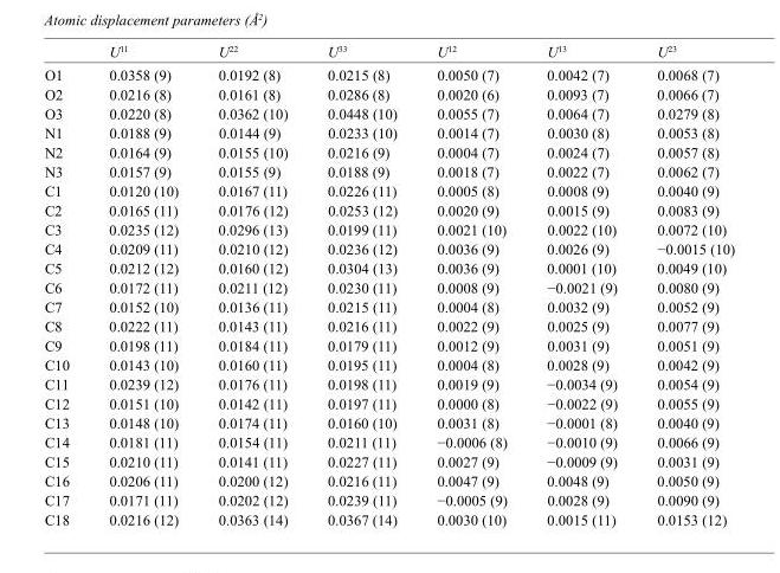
<table><thead><tr><td></td><td>U<sup>11</sup></td><td>U<sup>22</sup></td><td>U<sup>33</sup></td><td>U<sup>12</sup></td><td>U<sup>13</sup></td><td>U<sup>23</sup></td></tr></thead><tbody><tr><td>O1</td><td>0.0358 (9)</td><td>0.0192 (8)</td><td>0.0215 (8)</td><td>0.0050 (7)</td><td>0.0042 (7)</td><td>0.0068 (7)</td></tr><tr><td>O2</td><td>0.0216 (8)</td><td>0.0161 (8)</td><td>0.0286 (8)</td><td>0.0020 (6)</td><td>0.0093 (7)</td><td>0.0066 (7)</td></tr><tr><td>O3</td><td>0.0220 (8)</td><td>0.0362 (10)</td><td>0.0448 (10)</td><td>0.0055 (7)</td><td>0.0064 (7)</td><td>0.0279 (8)</td></tr><tr><td>N1</td><td>0.0188 (9)</td><td>0.0144 (9)</td><td>0.0233 (10)</td><td>0.0014 (7)</td><td>0.0030 (8)</td><td>0.0053 (8)</td></tr><tr><td>N2</td><td>0.0164 (9)</td><td>0.0155 (10)</td><td>0.0216 (9)</td><td>0.0004 (7)</td><td>0.0024 (7)</td><td>0.0057 (8)</td></tr><tr><td>N3</td><td>0.0157 (9)</td><td>0.0155 (9)</td><td>0.0188 (9)</td><td>0.0018 (7)</td><td>0.0022 (7)</td><td>0.0062 (7)</td></tr><tr><td>C1</td><td>0.0120 (10)</td><td>0.0167 (11)</td><td>0.0226 (11)</td><td>0.0005 (8)</td><td>0.0008 (9)</td><td>0.0040 (9)</td></tr><tr><td>C2</td><td>0.0165 (11)</td><td>0.0176 (12)</td><td>0.0253 (12)</td><td>0.0020 (9)</td><td>0.0015 (9)</td><td>0.0083 (9)</td></tr><tr><td>C3</td><td>0.0235 (12)</td><td>0.0296 (13)</td><td>0.0199 (11)</td><td>0.0021 (10)</td><td>0.0022 (10)</td><td>0.0072 (10)</td></tr><tr><td>C4</td><td>0.0209 (11)</td><td>0.0210 (12)</td><td>0.0236 (12)</td><td>0.0036 (9)</td><td>0.0026 (9)</td><td>−0.0015 (10)</td></tr><tr><td>C5</td><td>0.0212 (12)</td><td>0.0160 (12)</td><td>0.0304 (13)</td><td>0.0036 (9)</td><td>0.0001 (10)</td><td>0.0049 (10)</td></tr><tr><td>C6</td><td>0.0172 (11)</td><td>0.0211 (12)</td><td>0.0230 (11)</td><td>0.0008 (9)</td><td>−0.0021 (9)</td><td>0.0080 (9)</td></tr><tr><td>C7</td><td>0.0152 (10)</td><td>0.0136 (11)</td><td>0.0215 (11)</td><td>0.0004 (8)</td><td>0.0032 (9)</td><td>0.0052 (9)</td></tr><tr><td>C8</td><td>0.0222 (11)</td><td>0.0143 (11)</td><td>0.0216 (11)</td><td>0.0022 (9)</td><td>0.0025 (9)</td><td>0.0077 (9)</td></tr><tr><td>C9</td><td>0.0198 (11)</td><td>0.0184 (11)</td><td>0.0179 (11)</td><td>0.0012 (9)</td><td>0.0031 (9)</td><td>0.0051 (9)</td></tr><tr><td>C10</td><td>0.0143 (10)</td><td>0.0160 (11)</td><td>0.0195 (11)</td><td>0.0004 (8)</td><td>0.0028 (9)</td><td>0.0042 (9)</td></tr><tr><td>C11</td><td>0.0239 (12)</td><td>0.0176 (11)</td><td>0.0198 (11)</td><td>0.0019 (9)</td><td>−0.0034 (9)</td><td>0.0054 (9)</td></tr><tr><td>C12</td><td>0.0151 (10)</td><td>0.0142 (11)</td><td>0.0197 (11)</td><td>0.0000 (8)</td><td>−0.0022 (9)</td><td>0.0055 (9)</td></tr><tr><td>C13</td><td>0.0148 (10)</td><td>0.0174 (11)</td><td>0.0160 (10)</td><td>0.0031 (8)</td><td>−0.0001 (8)</td><td>0.0040 (9)</td></tr><tr><td>C14</td><td>0.0181 (11)</td><td>0.0154 (11)</td><td>0.0211 (11)</td><td>−0.0006 (8)</td><td>−0.0010 (9)</td><td>0.0066 (9)</td></tr><tr><td>C15</td><td>0.0210 (11)</td><td>0.0141 (11)</td><td>0.0227 (11)</td><td>0.0027 (9)</td><td>−0.0009 (9)</td><td>0.0031 (9)</td></tr><tr><td>C16</td><td>0.0206 (11)</td><td>0.0200 (12)</td><td>0.0216 (11)</td><td>0.0047 (9)</td><td>0.0048 (9)</td><td>0.0050 (9)</td></tr><tr><td>C17</td><td>0.0171 (11)</td><td>0.0202 (12)</td><td>0.0239 (11)</td><td>−0.0005 (9)</td><td>0.0028 (9)</td><td>0.0090 (9)</td></tr><tr><td>C18</td><td>0.0216 (12)</td><td>0.0363 (14)</td><td>0.0367 (14)</td><td>0.0030 (10)</td><td>0.0015 (11)</td><td>0.0153 (12)</td></tr></tbody></table>